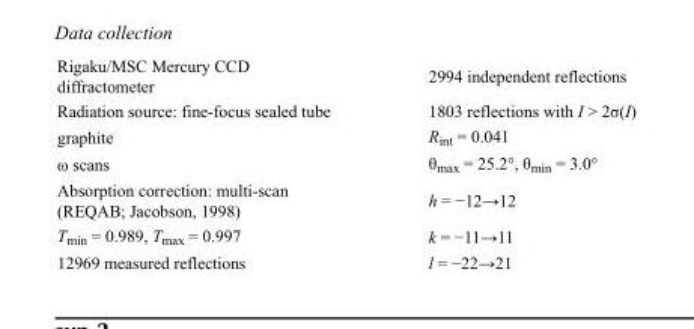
<table><tbody><tr><td>Rigaku/MSC Mercury CCD diffractometer</td><td>2994 independent reflections</td></tr><tr><td>Radiation source: fine-focus sealed tube</td><td>1803 reflections with I &gt; 2σ(I)</td></tr><tr><td>graphite</td><td>R<sub>int</sub> = 0.041</td></tr><tr><td>ω scans</td><td>θ<sub>max</sub> = 25.2°, θ<sub>min</sub> = 3.0°</td></tr><tr><td>Absorption correction: multi-scan (REQAB; Jacobson, 1998)</td><td>h = −12→12</td></tr><tr><td>T<sub>min</sub> = 0.989, T<sub>max</sub> = 0.997</td><td>k = −11→11</td></tr><tr><td>12969 measured reflections</td><td>l = −22→21</td></tr></tbody></table>